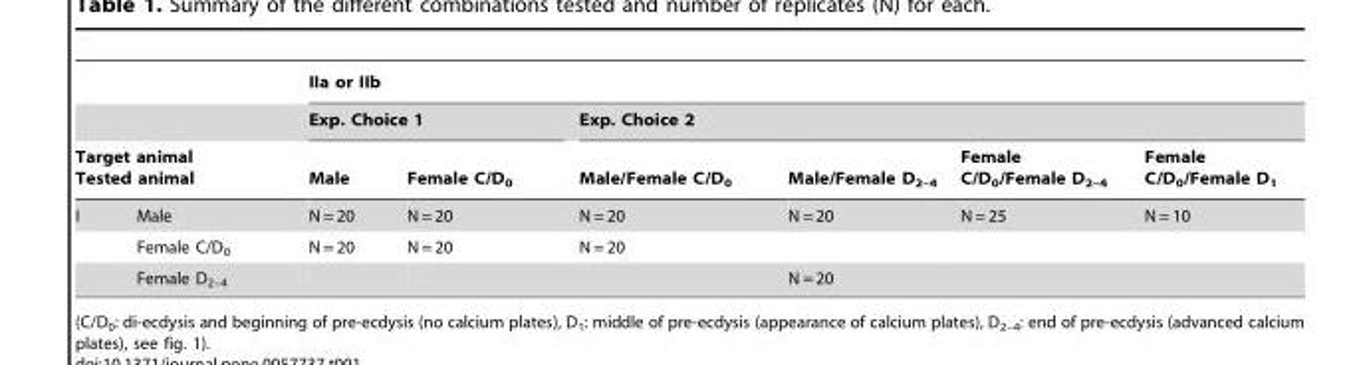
<table><thead><tr><td rowspan="2"></td><td rowspan="2"></td><td colspan="6">IIa or IIb</td></tr><tr><td colspan="2">Exp. Choice 1</td><td colspan="4">Exp. Choice 2</td></tr><tr><td colspan="2">Target animal Tested animal</td><td>Male</td><td>Female C/D<sub>0</sub></td><td>Male/Female C/D<sub>0</sub></td><td>Male/Female D<sub>2–4</sub></td><td>Female C/D<sub>0</sub>/Female D<sub>2–4</sub></td><td>Female C/D<sub>0</sub>/Female D<sub>1</sub></td></tr></thead><tbody><tr><td rowspan="3">I</td><td>Male</td><td>N = 20</td><td>N = 20</td><td>N = 20</td><td>N = 20</td><td>N = 25</td><td>N = 10</td></tr><tr><td>Female C/D<sub>0</sub></td><td>N = 20</td><td>N = 20</td><td>N = 20</td><td></td><td></td><td></td></tr><tr><td>Female D<sub>2–4</sub></td><td></td><td></td><td></td><td>N = 20</td><td></td><td></td></tr></tbody></table>